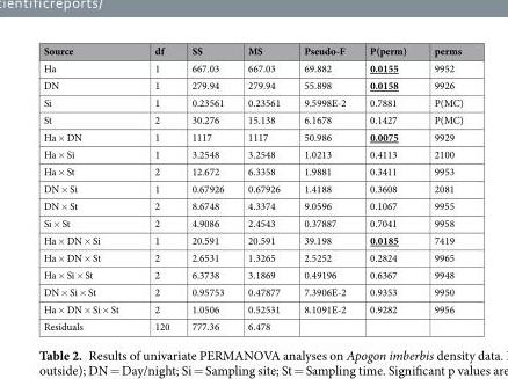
<table><thead><tr><td>Source</td><td>df</td><td>SS</td><td>MS</td><td>Pseudo-F</td><td>P(perm)</td><td>perms</td></tr></thead><tbody><tr><td>Ha</td><td>1</td><td>667.03</td><td>667.03</td><td>69.882</td><td>0.0155</td><td>9952</td></tr><tr><td>DN</td><td>1</td><td>279.94</td><td>279.94</td><td>55.898</td><td>0.0158</td><td>9926</td></tr><tr><td>Si</td><td>1</td><td>0.23561</td><td>0.23561</td><td>9.5998E-2</td><td>0.7881</td><td>P(MC)</td></tr><tr><td>St</td><td>2</td><td>30.276</td><td>15.138</td><td>6.1678</td><td>0.1427</td><td>P(MC)</td></tr><tr><td>Ha × DN</td><td>1</td><td>1117</td><td>1117</td><td>50.986</td><td>0.0075</td><td>9929</td></tr><tr><td>Ha × Si</td><td>1</td><td>3.2548</td><td>3.2548</td><td>1.0213</td><td>0.4113</td><td>2100</td></tr><tr><td>Ha × St</td><td>2</td><td>12.672</td><td>6.3358</td><td>1.9881</td><td>0.3411</td><td>9953</td></tr><tr><td>DN × Si</td><td>1</td><td>0.67926</td><td>0.67926</td><td>1.4188</td><td>0.3608</td><td>2081</td></tr><tr><td>DN × St</td><td>2</td><td>8.6748</td><td>4.3374</td><td>9.0596</td><td>0.1067</td><td>9955</td></tr><tr><td>Si × St</td><td>2</td><td>4.9086</td><td>2.4543</td><td>0.37887</td><td>0.7041</td><td>9958</td></tr><tr><td>Ha × DN × Si</td><td>1</td><td>20.591</td><td>20.591</td><td>39.198</td><td>0.0185</td><td>7419</td></tr><tr><td>Ha × DN × St</td><td>2</td><td>2.6531</td><td>1.3265</td><td>2.5252</td><td>0.2824</td><td>9965</td></tr><tr><td>Ha × Si × St</td><td>2</td><td>6.3738</td><td>3.1869</td><td>0.49196</td><td>0.6367</td><td>9948</td></tr><tr><td>DN × Si × St</td><td>2</td><td>0.95753</td><td>0.47877</td><td>7.3906E-2</td><td>0.9353</td><td>9950</td></tr><tr><td>Ha × DN × Si × St</td><td>2</td><td>1.0506</td><td>0.52531</td><td>8.1091E-2</td><td>0.9282</td><td>9956</td></tr><tr><td>Residuals</td><td>120</td><td>777.36</td><td>6.478</td><td></td><td></td><td></td></tr></tbody></table>